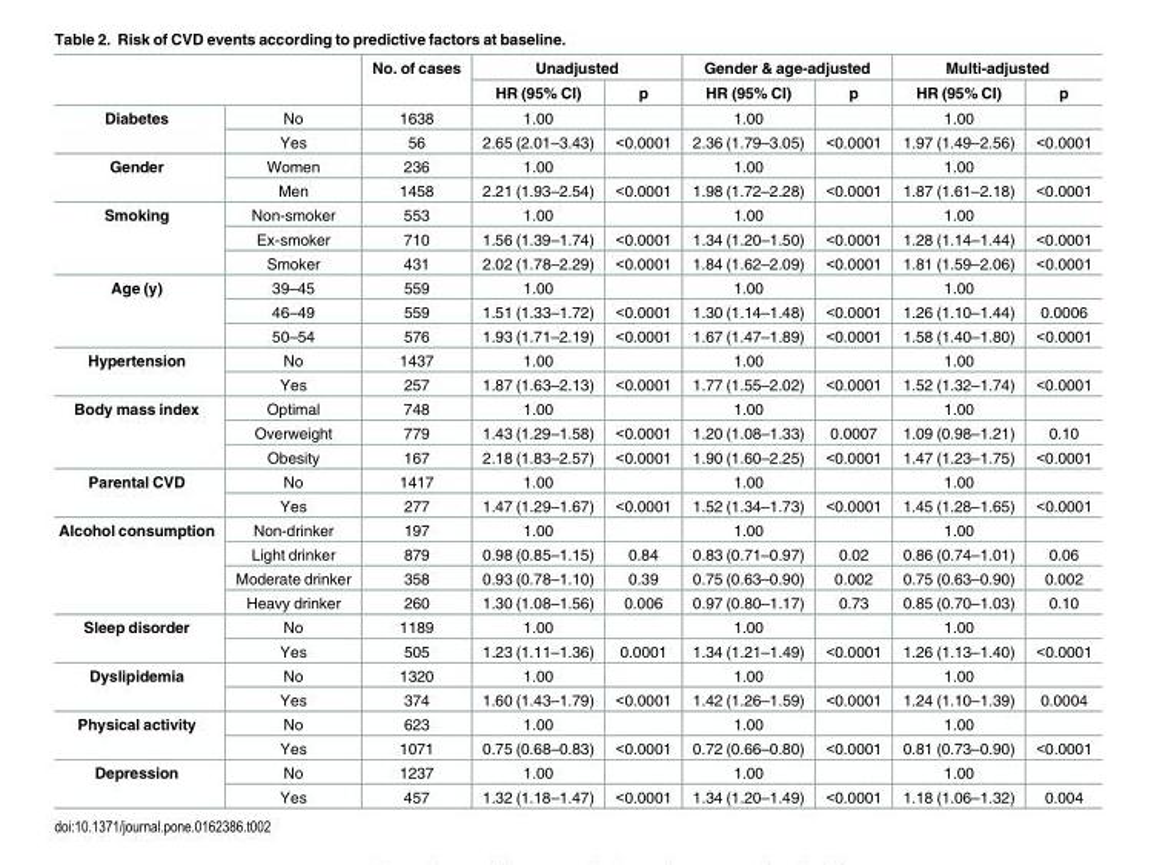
<table><thead><tr><td rowspan="2"></td><td rowspan="2"></td><td rowspan="2">No. of cases</td><td colspan="2">Unadjusted</td><td colspan="2">Gender &amp; age-adjusted</td><td colspan="2">Multi-adjusted</td></tr><tr><td>HR (95% CI)</td><td>p</td><td>HR (95% CI)</td><td>p</td><td>HR (95% CI)</td><td>p</td></tr></thead><tbody><tr><td rowspan="2">Diabetes</td><td>No</td><td>1638</td><td>1.00</td><td></td><td>1.00</td><td></td><td>1.00</td><td></td></tr><tr><td>Yes</td><td>56</td><td>2.65 (2.01–3.43)</td><td>&lt;0.0001</td><td>2.36 (1.79–3.05)</td><td>&lt;0.0001</td><td>1.97 (1.49–2.56)</td><td>&lt;0.0001</td></tr><tr><td rowspan="2">Gender</td><td>Women</td><td>236</td><td>1.00</td><td></td><td>1.00</td><td></td><td>1.00</td><td></td></tr><tr><td>Men</td><td>1458</td><td>2.21 (1.93–2.54)</td><td>&lt;0.0001</td><td>1.98 (1.72–2.28)</td><td>&lt;0.0001</td><td>1.87 (1.61–2.18)</td><td>&lt;0.0001</td></tr><tr><td rowspan="3">Smoking</td><td>Non-smoker</td><td>553</td><td>1.00</td><td></td><td>1.00</td><td></td><td>1.00</td><td></td></tr><tr><td>Ex-smoker</td><td>710</td><td>1.56 (1.39–1.74)</td><td>&lt;0.0001</td><td>1.34 (1.20–1.50)</td><td>&lt;0.0001</td><td>1.28 (1.14–1.44)</td><td>&lt;0.0001</td></tr><tr><td>Smoker</td><td>431</td><td>2.02 (1.78–2.29)</td><td>&lt;0.0001</td><td>1.84 (1.62–2.09)</td><td>&lt;0.0001</td><td>1.81 (1.59–2.06)</td><td>&lt;0.0001</td></tr><tr><td rowspan="3">Age (y)</td><td>39–45</td><td>559</td><td>1.00</td><td></td><td>1.00</td><td></td><td>1.00</td><td></td></tr><tr><td>46–49</td><td>559</td><td>1.51 (1.33–1.72)</td><td>&lt;0.0001</td><td>1.30 (1.14–1.48)</td><td>&lt;0.0001</td><td>1.26 (1.10–1.44)</td><td>0.0006</td></tr><tr><td>50–54</td><td>576</td><td>1.93 (1.71–2.19)</td><td>&lt;0.0001</td><td>1.67 (1.47–1.89)</td><td>&lt;0.0001</td><td>1.58 (1.40–1.80)</td><td>&lt;0.0001</td></tr><tr><td rowspan="2">Hypertension</td><td>No</td><td>1437</td><td>1.00</td><td></td><td>1.00</td><td></td><td>1.00</td><td></td></tr><tr><td>Yes</td><td>257</td><td>1.87 (1.63–2.13)</td><td>&lt;0.0001</td><td>1.77 (1.55–2.02)</td><td>&lt;0.0001</td><td>1.52 (1.32–1.74)</td><td>&lt;0.0001</td></tr><tr><td rowspan="3">Body mass index</td><td>Optimal</td><td>748</td><td>1.00</td><td></td><td>1.00</td><td></td><td>1.00</td><td></td></tr><tr><td>Overweight</td><td>779</td><td>1.43 (1.29–1.58)</td><td>&lt;0.0001</td><td>1.20 (1.08–1.33)</td><td>0.0007</td><td>1.09 (0.98–1.21)</td><td>0.10</td></tr><tr><td>Obesity</td><td>167</td><td>2.18 (1.83–2.57)</td><td>&lt;0.0001</td><td>1.90 (1.60–2.25)</td><td>&lt;0.0001</td><td>1.47 (1.23–1.75)</td><td>&lt;0.0001</td></tr><tr><td rowspan="2">Parental CVD</td><td>No</td><td>1417</td><td>1.00</td><td></td><td>1.00</td><td></td><td>1.00</td><td></td></tr><tr><td>Yes</td><td>277</td><td>1.47 (1.29–1.67)</td><td>&lt;0.0001</td><td>1.52 (1.34–1.73)</td><td>&lt;0.0001</td><td>1.45 (1.28–1.65)</td><td>&lt;0.0001</td></tr><tr><td rowspan="4">Alcohol consumption</td><td>Non-drinker</td><td>197</td><td>1.00</td><td></td><td>1.00</td><td></td><td>1.00</td><td></td></tr><tr><td>Light drinker</td><td>879</td><td>0.98 (0.85–1.15)</td><td>0.84</td><td>0.83 (0.71–0.97)</td><td>0.02</td><td>0.86 (0.74–1.01)</td><td>0.06</td></tr><tr><td>Moderate drinker</td><td>358</td><td>0.93 (0.78–1.10)</td><td>0.39</td><td>0.75 (0.63–0.90)</td><td>0.002</td><td>0.75 (0.63–0.90)</td><td>0.002</td></tr><tr><td>Heavy drinker</td><td>260</td><td>1.30 (1.08–1.56)</td><td>0.006</td><td>0.97 (0.80–1.17)</td><td>0.73</td><td>0.85 (0.70–1.03)</td><td>0.10</td></tr><tr><td rowspan="2">Sleep disorder</td><td>No</td><td>1189</td><td>1.00</td><td></td><td>1.00</td><td></td><td>1.00</td><td></td></tr><tr><td>Yes</td><td>505</td><td>1.23 (1.11–1.36)</td><td>0.0001</td><td>1.34 (1.21–1.49)</td><td>&lt;0.0001</td><td>1.26 (1.13–1.40)</td><td>&lt;0.0001</td></tr><tr><td rowspan="2">Dyslipidemia</td><td>No</td><td>1320</td><td>1.00</td><td></td><td>1.00</td><td></td><td>1.00</td><td></td></tr><tr><td>Yes</td><td>374</td><td>1.60 (1.43–1.79)</td><td>&lt;0.0001</td><td>1.42 (1.26–1.59)</td><td>&lt;0.0001</td><td>1.24 (1.10–1.39)</td><td>0.0004</td></tr><tr><td rowspan="2">Physical activity</td><td>No</td><td>623</td><td>1.00</td><td></td><td>1.00</td><td></td><td>1.00</td><td></td></tr><tr><td>Yes</td><td>1071</td><td>0.75 (0.68–0.83)</td><td>&lt;0.0001</td><td>0.72 (0.66–0.80)</td><td>&lt;0.0001</td><td>0.81 (0.73–0.90)</td><td>&lt;0.0001</td></tr><tr><td rowspan="2">Depression</td><td>No</td><td>1237</td><td>1.00</td><td></td><td>1.00</td><td></td><td>1.00</td><td></td></tr><tr><td>Yes</td><td>457</td><td>1.32 (1.18–1.47)</td><td>&lt;0.0001</td><td>1.34 (1.20–1.49)</td><td>&lt;0.0001</td><td>1.18 (1.06–1.32)</td><td>0.004</td></tr></tbody></table>